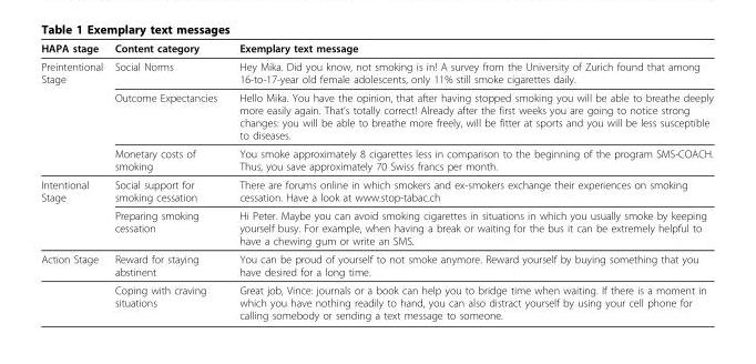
<table><thead><tr><td>HAPA stage</td><td>Content category</td><td>Exemplary text message</td></tr></thead><tbody><tr><td rowspan="3">Preintentional Stage</td><td>Social Norms</td><td>Hey Mika. Did you know, not smoking is in! A survey from the University of Zurich found that among 16-to-17-year old female adolescents, only 11% still smoke cigarettes daily.</td></tr><tr><td>Outcome Expectancies</td><td>Hello Mika. You have the opinion, that after having stopped smoking you will be able to breathe deeply more easily again. That’s totally correct! Already after the first weeks you are going to notice strong changes: you will be able to breathe more freely, will be fitter at sports and you will be less susceptible to diseases.</td></tr><tr><td>Monetary costs of smoking</td><td>You smoke approximately 8 cigarettes less in comparison to the beginning of the program SMS-COACH. Thus, you save approximately 70 Swiss francs per month.</td></tr><tr><td rowspan="2">Intentional Stage</td><td>Social support for smoking cessation</td><td>There are forums online in which smokers and ex-smokers exchange their experiences on smoking cessation. Have a look at www.stop-tabac.ch</td></tr><tr><td>Preparing smoking cessation</td><td>Hi Peter. Maybe you can avoid smoking cigarettes in situations in which you usually smoke by keeping yourself busy. For example, when having a break or waiting for the bus it can be extremely helpful to have a chewing gum or write an SMS.</td></tr><tr><td rowspan="2">Action Stage</td><td>Reward for staying abstinent</td><td>You can be proud of yourself to not smoke anymore. Reward yourself by buying something that you have desired for a long time.</td></tr><tr><td>Coping with craving situations</td><td>Great job, Vince: journals or a book can help you to bridge time when waiting. If there is a moment in which you have nothing readily to hand, you can also distract yourself by using your cell phone for calling somebody or sending a text message to someone.</td></tr></tbody></table>